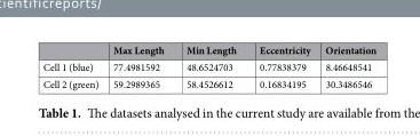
<table><thead><tr><td></td><td>Max Length</td><td>Min Length</td><td>Eccentricity</td><td>Orientation</td></tr></thead><tbody><tr><td>Cell 1 (blue)</td><td>77.4981592</td><td>48.6524703</td><td>0.77838379</td><td>8.46648541</td></tr><tr><td>Cell 2 (green)</td><td>59.2989365</td><td>58.4526612</td><td>0.16834195</td><td>30.3486546</td></tr></tbody></table>